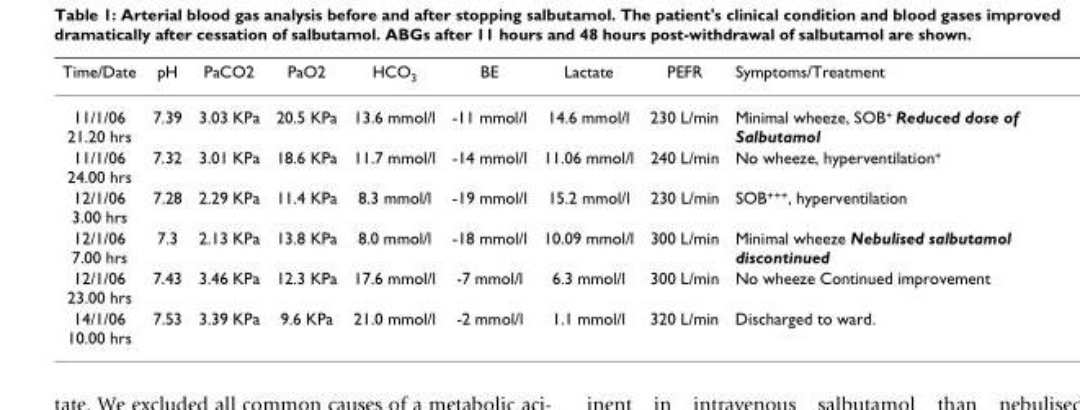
<table><thead><tr><td>Time/Date</td><td>pH</td><td>PaCO2</td><td>PaO2</td><td>HCO<sub>3</sub></td><td>BE</td><td>Lactate</td><td>PEFR</td><td>Symptoms/Treatment</td></tr></thead><tbody><tr><td>11/1/06 21.20 hrs</td><td>7.39</td><td>3.03 KPa</td><td>20.5 KPa</td><td>13.6 mmol/l</td><td>-11 mmol/l</td><td>14.6 mmol/l</td><td>230 L/min</td><td>Minimal wheeze, SOB<sup>+</sup> Reduced dose of Salbutamol</td></tr><tr><td>11/1/06 24.00 hrs</td><td>7.32</td><td>3.01 KPa</td><td>18.6 KPa</td><td>11.7 mmol/l</td><td>-14 mmol/l</td><td>11.06 mmol/l</td><td>240 L/min</td><td>No wheeze, hyperventilation<sup>+</sup></td></tr><tr><td>12/1/06 3.00 hrs</td><td>7.28</td><td>2.29 KPa</td><td>11.4 KPa</td><td>8.3 mmol/l</td><td>-19 mmol/l</td><td>15.2 mmol/l</td><td>230 L/min</td><td>SOB<sup>+++</sup>, hyperventilation</td></tr><tr><td>12/1/06 7.00 hrs</td><td>7.3</td><td>2.13 KPa</td><td>13.8 KPa</td><td>8.0 mmol/l</td><td>-18 mmol/l</td><td>10.09 mmol/l</td><td>300 L/min</td><td>Minimal wheeze Nebulised salbutamol discontinued</td></tr><tr><td>12/1/06 23.00 hrs</td><td>7.43</td><td>3.46 KPa</td><td>12.3 KPa</td><td>17.6 mmol/l</td><td>-7 mmol/l</td><td>6.3 mmol/l</td><td>300 L/min</td><td>No wheeze Continued improvement</td></tr><tr><td>14/1/06 10.00 hrs</td><td>7.53</td><td>3.39 KPa</td><td>9.6 KPa</td><td>21.0 mmol/l</td><td>-2 mmol/l</td><td>1.1 mmol/l</td><td>320 L/min</td><td>Discharged to ward.</td></tr></tbody></table>